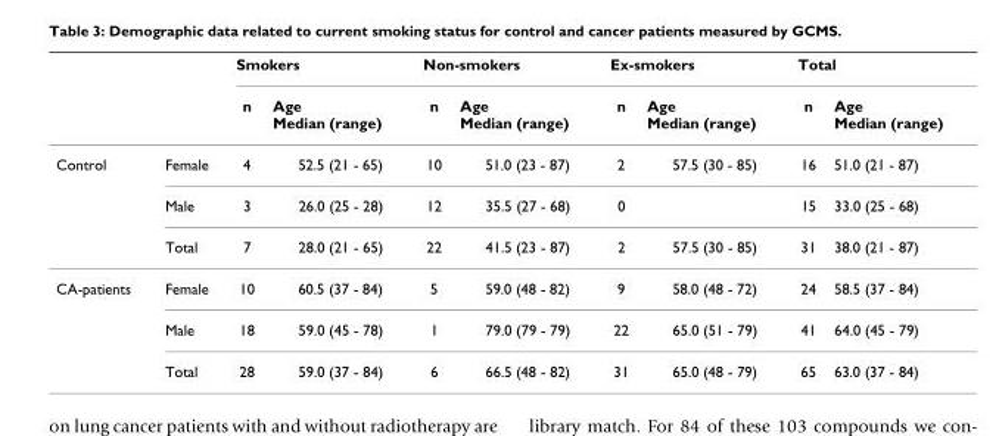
<table><thead><tr><td rowspan="2"></td><td rowspan="2"></td><td colspan="2">Smokers</td><td colspan="2">Non-smokers</td><td colspan="2">Ex-smokers</td><td colspan="2">Total</td></tr><tr><td>n</td><td>Age Median (range)</td><td>n</td><td>Age Median (range)</td><td>n</td><td>Age Median (range)</td><td>n</td><td>Age Median (range)</td></tr></thead><tbody><tr><td rowspan="3">Control</td><td>Female</td><td>4</td><td>52.5 (21 - 65)</td><td>10</td><td>51.0 (23 - 87)</td><td>2</td><td>57.5 (30 - 85)</td><td>16</td><td>51.0 (21 - 87)</td></tr><tr><td>Male</td><td>3</td><td>26.0 (25 - 28)</td><td>12</td><td>35.5 (27 - 68)</td><td>0</td><td></td><td>15</td><td>33.0 (25 - 68)</td></tr><tr><td>Total</td><td>7</td><td>28.0 (21 - 65)</td><td>22</td><td>41.5 (23 - 87)</td><td>2</td><td>57.5 (30 - 85)</td><td>31</td><td>38.0 (21 - 87)</td></tr><tr><td rowspan="3">CA-patients</td><td>Female</td><td>10</td><td>60.5 (37 - 84)</td><td>5</td><td>59.0 (48 - 82)</td><td>9</td><td>58.0 (48 - 72)</td><td>24</td><td>58.5 (37 - 84)</td></tr><tr><td>Male</td><td>18</td><td>59.0 (45 - 78)</td><td>1</td><td>79.0 (79 - 79)</td><td>22</td><td>65.0 (51 - 79)</td><td>41</td><td>64.0 (45 - 79)</td></tr><tr><td>Total</td><td>28</td><td>59.0 (37 - 84)</td><td>6</td><td>66.5 (48 - 82)</td><td>31</td><td>65.0 (48 - 79)</td><td>65</td><td>63.0 (37 - 84)</td></tr></tbody></table>